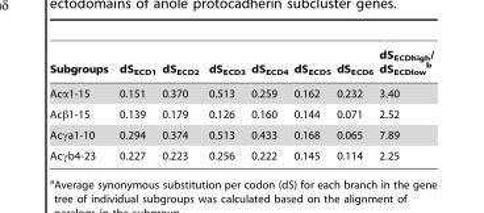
<table><thead><tr><td>Subgroups</td><td>dS<sub>ECD1</sub></td><td>dS<sub>ECD2</sub></td><td>dS<sub>ECD3</sub></td><td>dS<sub>ECD4</sub></td><td>dS<sub>ECD5</sub></td><td>dS<sub>ECD6</sub></td><td>dS<sub>ECDhigh</sub>/ dS<sub>ECDlow</sub> b</td></tr></thead><tbody><tr><td>Acα1-15</td><td>0.151</td><td>0.370</td><td>0.513</td><td>0.259</td><td>0.162</td><td>0.232</td><td>3.40</td></tr><tr><td>Acβ1-15</td><td>0.139</td><td>0.179</td><td>0.126</td><td>0.160</td><td>0.144</td><td>0.071</td><td>2.52</td></tr><tr><td>Acγa1-10</td><td>0.294</td><td>0.374</td><td>0.513</td><td>0.433</td><td>0.168</td><td>0.065</td><td>7.89</td></tr><tr><td>Acγb4-23</td><td>0.227</td><td>0.223</td><td>0.256</td><td>0.222</td><td>0.145</td><td>0.114</td><td>2.25</td></tr></tbody></table>